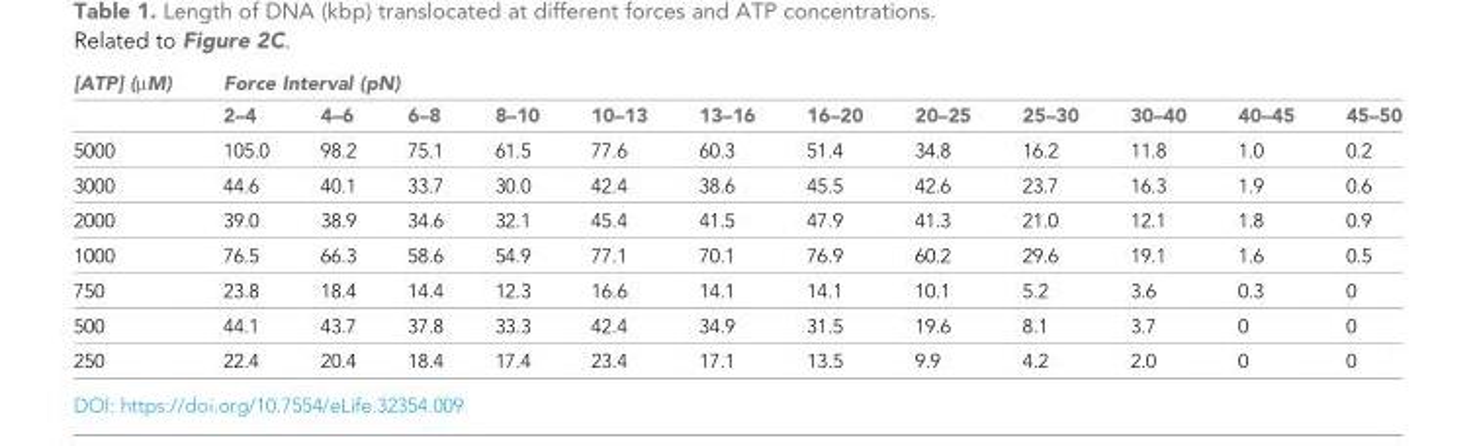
<table><thead><tr><td rowspan="2">[ATP] (µM)</td><td colspan="12">Force Interval (pN)</td></tr><tr><td>2–4</td><td>4–6</td><td>6–8</td><td>8–10</td><td>10–13</td><td>13–16</td><td>16–20</td><td>20–25</td><td>25–30</td><td>30–40</td><td>40–45</td><td>45–50</td></tr></thead><tbody><tr><td>5000</td><td>105.0</td><td>98.2</td><td>75.1</td><td>61.5</td><td>77.6</td><td>60.3</td><td>51.4</td><td>34.8</td><td>16.2</td><td>11.8</td><td>1.0</td><td>0.2</td></tr><tr><td>3000</td><td>44.6</td><td>40.1</td><td>33.7</td><td>30.0</td><td>42.4</td><td>38.6</td><td>45.5</td><td>42.6</td><td>23.7</td><td>16.3</td><td>1.9</td><td>0.6</td></tr><tr><td>2000</td><td>39.0</td><td>38.9</td><td>34.6</td><td>32.1</td><td>45.4</td><td>41.5</td><td>47.9</td><td>41.3</td><td>21.0</td><td>12.1</td><td>1.8</td><td>0.9</td></tr><tr><td>1000</td><td>76.5</td><td>66.3</td><td>58.6</td><td>54.9</td><td>77.1</td><td>70.1</td><td>76.9</td><td>60.2</td><td>29.6</td><td>19.1</td><td>1.6</td><td>0.5</td></tr><tr><td>750</td><td>23.8</td><td>18.4</td><td>14.4</td><td>12.3</td><td>16.6</td><td>14.1</td><td>14.1</td><td>10.1</td><td>5.2</td><td>3.6</td><td>0.3</td><td>0</td></tr><tr><td>500</td><td>44.1</td><td>43.7</td><td>37.8</td><td>33.3</td><td>42.4</td><td>34.9</td><td>31.5</td><td>19.6</td><td>8.1</td><td>3.7</td><td>0</td><td>0</td></tr><tr><td>250</td><td>22.4</td><td>20.4</td><td>18.4</td><td>17.4</td><td>23.4</td><td>17.1</td><td>13.5</td><td>9.9</td><td>4.2</td><td>2.0</td><td>0</td><td>0</td></tr></tbody></table>